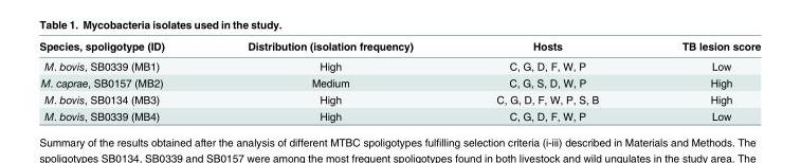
<table><thead><tr><td>Species, spoligotype (ID)</td><td>Distribution (isolation frequency)</td><td>Hosts</td><td>TB lesion score</td></tr></thead><tbody><tr><td>M. bovis, SB0339 (MB1)</td><td>High</td><td>C, G, D, F, W, P</td><td>Low</td></tr><tr><td>M. caprae, SB0157 (MB2)</td><td>Medium</td><td>C, G, S, D, W, P</td><td>High</td></tr><tr><td>M. bovis, SB0134 (MB3)</td><td>High</td><td>C, G, D, F, W, P, S, B</td><td>High</td></tr><tr><td>M. bovis, SB0339 (MB4)</td><td>High</td><td>C, G, D, F, W, P</td><td>Low</td></tr></tbody></table>